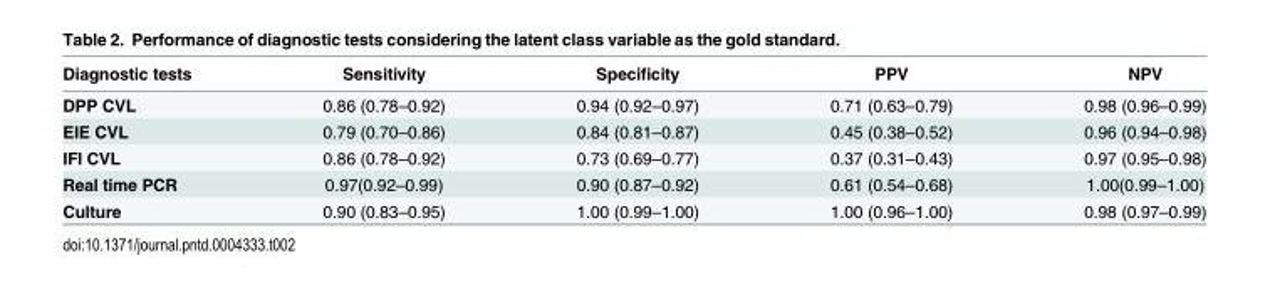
<table><thead><tr><td>Diagnostic tests</td><td>Sensitivity</td><td>Specificity</td><td>PPV</td><td>NPV</td></tr></thead><tbody><tr><td>DPP CVL</td><td>0.86 (0.78–0.92)</td><td>0.94 (0.92–0.97)</td><td>0.71 (0.63–0.79)</td><td>0.98 (0.96–0.99)</td></tr><tr><td>EIE CVL</td><td>0.79 (0.70–0.86)</td><td>0.84 (0.81–0.87)</td><td>0.45 (0.38–0.52)</td><td>0.96 (0.94–0.98)</td></tr><tr><td>IFI CVL</td><td>0.86 (0.78–0.92)</td><td>0.73 (0.69–0.77)</td><td>0.37 (0.31–0.43)</td><td>0.97 (0.95–0.98)</td></tr><tr><td>Real time PCR</td><td>0.97(0.92–0.99)</td><td>0.90 (0.87–0.92)</td><td>0.61 (0.54–0.68)</td><td>1.00(0.99–1.00)</td></tr><tr><td>Culture</td><td>0.90 (0.83–0.95)</td><td>1.00 (0.99–1.00)</td><td>1.00 (0.96–1.00)</td><td>0.98 (0.97–0.99)</td></tr></tbody></table>